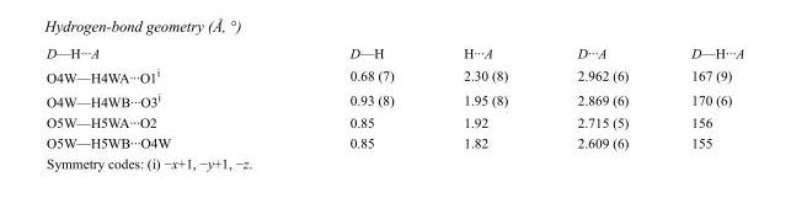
<table><tbody><tr><td>D—H···A</td><td>D—H</td><td>H···A</td><td>D···A</td><td>D—H···A</td></tr><tr><td>O4W—H4WA···O1<sup>i</sup></td><td>0.68 (7)</td><td>2.30 (8)</td><td>2.962 (6)</td><td>167 (9)</td></tr><tr><td>O4W—H4WB···O3<sup>i</sup></td><td>0.93 (8)</td><td>1.95 (8)</td><td>2.869 (6)</td><td>170 (6)</td></tr><tr><td>O5W—H5WA···O2</td><td>0.85</td><td>1.92</td><td>2.715 (5)</td><td>156</td></tr><tr><td>O5W—H5WB···O4W</td><td>0.85</td><td>1.82</td><td>2.609 (6)</td><td>155</td></tr></tbody></table>